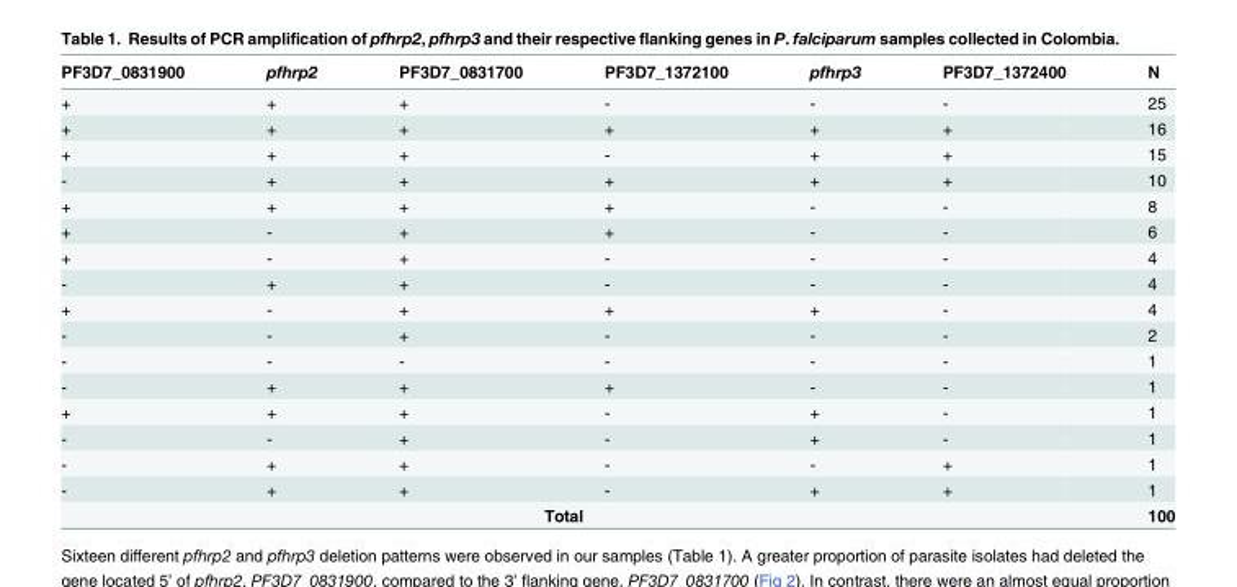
<table><thead><tr><td>PF3D7_0831900</td><td>pfhrp2</td><td>PF3D7_0831700</td><td>PF3D7_1372100</td><td>pfhrp3</td><td>PF3D7_1372400</td><td>N</td></tr></thead><tbody><tr><td>+</td><td>+</td><td>+</td><td>-</td><td>-</td><td>-</td><td>25</td></tr><tr><td>+</td><td>+</td><td>+</td><td>+</td><td>+</td><td>+</td><td>16</td></tr><tr><td>+</td><td>+</td><td>+</td><td>-</td><td>+</td><td>+</td><td>15</td></tr><tr><td>-</td><td>+</td><td>+</td><td>+</td><td>+</td><td>+</td><td>10</td></tr><tr><td>+</td><td>+</td><td>+</td><td>+</td><td>-</td><td>-</td><td>8</td></tr><tr><td>+</td><td>-</td><td>+</td><td>+</td><td>-</td><td>-</td><td>6</td></tr><tr><td>+</td><td>-</td><td>+</td><td>-</td><td>-</td><td>-</td><td>4</td></tr><tr><td>-</td><td>+</td><td>+</td><td>-</td><td>-</td><td>-</td><td>4</td></tr><tr><td>+</td><td>-</td><td>+</td><td>+</td><td>+</td><td>-</td><td>4</td></tr><tr><td>-</td><td>-</td><td>+</td><td>-</td><td>-</td><td>-</td><td>2</td></tr><tr><td>-</td><td>-</td><td>-</td><td>-</td><td>-</td><td>-</td><td>1</td></tr><tr><td>-</td><td>+</td><td>+</td><td>+</td><td>-</td><td>-</td><td>1</td></tr><tr><td>+</td><td>+</td><td>+</td><td>-</td><td>+</td><td>-</td><td>1</td></tr><tr><td>-</td><td>-</td><td>+</td><td>-</td><td>+</td><td>-</td><td>1</td></tr><tr><td>-</td><td>+</td><td>+</td><td>-</td><td>-</td><td>+</td><td>1</td></tr><tr><td>-</td><td>+</td><td>+</td><td>-</td><td>+</td><td>+</td><td>1</td></tr><tr><td colspan="6">Total</td><td>100</td></tr></tbody></table>